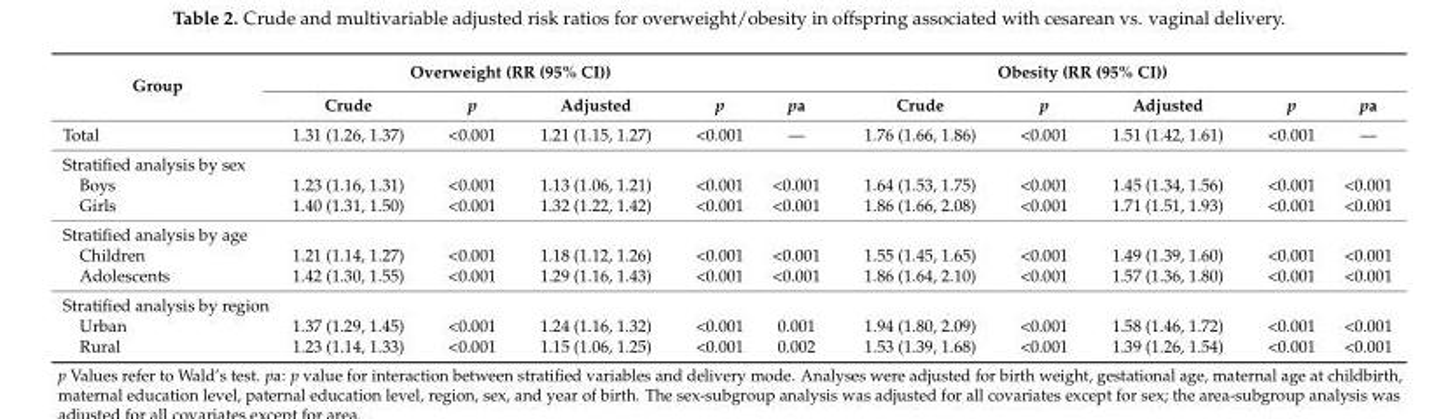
<table><thead><tr><td rowspan="2">Group</td><td colspan="4">Overweight (RR (95% CI))</td><td rowspan="2">pa</td><td colspan="4">Obesity (RR (95% CI))</td><td rowspan="2">pa</td></tr><tr><td>Crude</td><td>p</td><td>Adjusted</td><td>p</td><td>Crude</td><td>p</td><td>Adjusted</td><td>p</td></tr></thead><tbody><tr><td>Total</td><td>1.31 (1.26, 1.37)</td><td>&lt;0.001</td><td>1.21 (1.15, 1.27)</td><td>&lt;0.001</td><td>—</td><td>1.76 (1.66, 1.86)</td><td>&lt;0.001</td><td>1.51 (1.42, 1.61)</td><td>&lt;0.001</td><td>—</td></tr><tr><td colspan="11">Stratified analysis by sex</td></tr><tr><td>Boys</td><td>1.23 (1.16, 1.31)</td><td>&lt;0.001</td><td>1.13 (1.06, 1.21)</td><td>&lt;0.001</td><td>&lt;0.001</td><td>1.64 (1.53, 1.75)</td><td>&lt;0.001</td><td>1.45 (1.34, 1.56)</td><td>&lt;0.001</td><td>&lt;0.001</td></tr><tr><td>Girls</td><td>1.40 (1.31, 1.50)</td><td>&lt;0.001</td><td>1.32 (1.22, 1.42)</td><td>&lt;0.001</td><td>&lt;0.001</td><td>1.86 (1.66, 2.08)</td><td>&lt;0.001</td><td>1.71 (1.51, 1.93)</td><td>&lt;0.001</td><td>&lt;0.001</td></tr><tr><td colspan="11">Stratified analysis by age</td></tr><tr><td>Children</td><td>1.21 (1.14, 1.27)</td><td>&lt;0.001</td><td>1.18 (1.12, 1.26)</td><td>&lt;0.001</td><td>&lt;0.001</td><td>1.55 (1.45, 1.65)</td><td>&lt;0.001</td><td>1.49 (1.39, 1.60)</td><td>&lt;0.001</td><td>&lt;0.001</td></tr><tr><td>Adolescents</td><td>1.42 (1.30, 1.55)</td><td>&lt;0.001</td><td>1.29 (1.16, 1.43)</td><td>&lt;0.001</td><td>&lt;0.001</td><td>1.86 (1.64, 2.10)</td><td>&lt;0.001</td><td>1.57 (1.36, 1.80)</td><td>&lt;0.001</td><td>&lt;0.001</td></tr><tr><td colspan="11">Stratified analysis by region</td></tr><tr><td>Urban</td><td>1.37 (1.29, 1.45)</td><td>&lt;0.001</td><td>1.24 (1.16, 1.32)</td><td>&lt;0.001</td><td>0.001</td><td>1.94 (1.80, 2.09)</td><td>&lt;0.001</td><td>1.58 (1.46, 1.72)</td><td>&lt;0.001</td><td>&lt;0.001</td></tr><tr><td>Rural</td><td>1.23 (1.14, 1.33)</td><td>&lt;0.001</td><td>1.15 (1.06, 1.25)</td><td>&lt;0.001</td><td>0.002</td><td>1.53 (1.39, 1.68)</td><td>&lt;0.001</td><td>1.39 (1.26, 1.54)</td><td>&lt;0.001</td><td>&lt;0.001</td></tr></tbody></table>